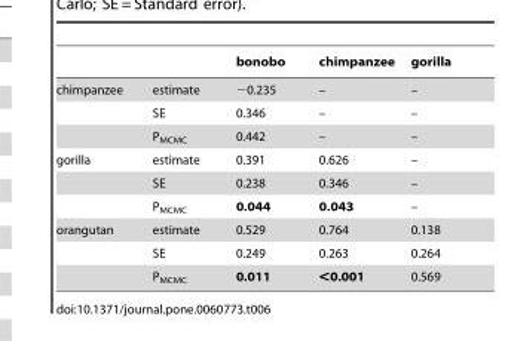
<table><thead><tr><td></td><td></td><td>bonobo</td><td>chimpanzee</td><td>gorilla</td></tr></thead><tbody><tr><td rowspan="3">chimpanzee</td><td>estimate</td><td>−0.235</td><td>–</td><td>–</td></tr><tr><td>SE</td><td>0.346</td><td>–</td><td>–</td></tr><tr><td>P<sub>MCMC</sub></td><td>0.442</td><td>–</td><td>–</td></tr><tr><td rowspan="3">gorilla</td><td>estimate</td><td>0.391</td><td>0.626</td><td>–</td></tr><tr><td>SE</td><td>0.238</td><td>0.346</td><td>–</td></tr><tr><td>P<sub>MCMC</sub></td><td>0.044</td><td>0.043</td><td>–</td></tr><tr><td rowspan="3">orangutan</td><td>estimate</td><td>0.529</td><td>0.764</td><td>0.138</td></tr><tr><td>SE</td><td>0.249</td><td>0.263</td><td>0.264</td></tr><tr><td>P<sub>MCMC</sub></td><td>0.011</td><td>&lt;0.001</td><td>0.569</td></tr></tbody></table>